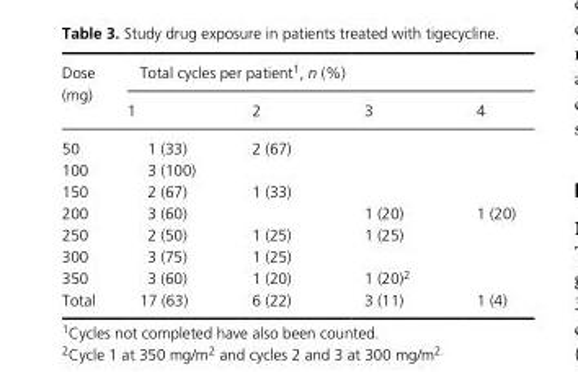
<table><thead><tr><td rowspan="2">Dose (mg)</td><td colspan="4">Total cycles per patient1, n (%)</td></tr><tr><td>1</td><td>2</td><td>3</td><td>4</td></tr></thead><tbody><tr><td>50</td><td>1 (33)</td><td>2 (67)</td><td></td><td></td></tr><tr><td>100</td><td>3 (100)</td><td></td><td></td><td></td></tr><tr><td>150</td><td>2 (67)</td><td>1 (33)</td><td></td><td></td></tr><tr><td>200</td><td>3 (60)</td><td></td><td>1 (20)</td><td>1 (20)</td></tr><tr><td>250</td><td>2 (50)</td><td>1 (25)</td><td>1 (25)</td><td></td></tr><tr><td>300</td><td>3 (75)</td><td>1 (25)</td><td></td><td></td></tr><tr><td>350</td><td>3 (60)</td><td>1 (20)</td><td>1 (20)2</td><td></td></tr><tr><td>Total</td><td>17 (63)</td><td>6 (22)</td><td>3 (11)</td><td>1 (4)</td></tr></tbody></table>